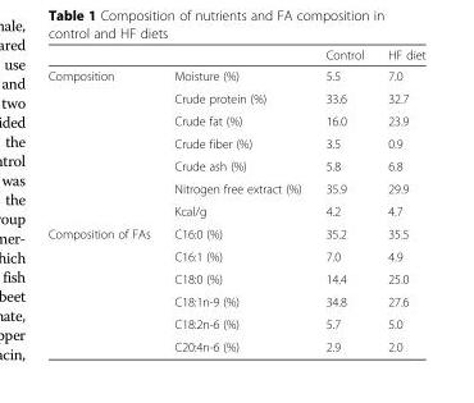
<table><thead><tr><td></td><td></td><td>Control</td><td>HF diet</td></tr></thead><tbody><tr><td rowspan="7">Composition</td><td>Moisture (%)</td><td>5.5</td><td>7.0</td></tr><tr><td>Crude protein (%)</td><td>33.6</td><td>32.7</td></tr><tr><td>Crude fat (%)</td><td>16.0</td><td>23.9</td></tr><tr><td>Crude fiber (%)</td><td>3.5</td><td>0.9</td></tr><tr><td>Crude ash (%)</td><td>5.8</td><td>6.8</td></tr><tr><td>Nitrogen free extract (%)</td><td>35.9</td><td>29.9</td></tr><tr><td>Kcal/g</td><td>4.2</td><td>4.7</td></tr><tr><td rowspan="6">Composition of FAs</td><td>C16:0 (%)</td><td>35.2</td><td>35.5</td></tr><tr><td>C16:1 (%)</td><td>7.0</td><td>4.9</td></tr><tr><td>C18:0 (%)</td><td>14.4</td><td>25.0</td></tr><tr><td>C18:1n-9 (%)</td><td>34.8</td><td>27.6</td></tr><tr><td>C18:2n-6 (%)</td><td>5.7</td><td>5.0</td></tr><tr><td>C20:4n-6 (%)</td><td>2.9</td><td>2.0</td></tr></tbody></table>